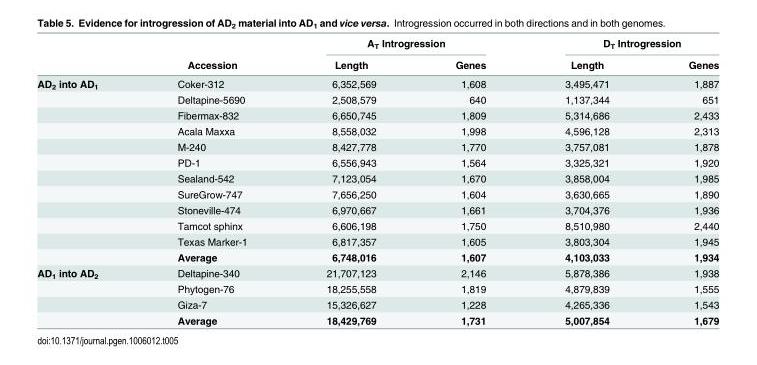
<table><thead><tr><td rowspan="2"></td><td rowspan="2">Accession</td><td colspan="2">A<sub>T</sub> Introgression</td><td colspan="2">D<sub>T</sub> Introgression</td></tr><tr><td>Length</td><td>Genes</td><td>Length</td><td>Genes</td></tr></thead><tbody><tr><td rowspan="12">AD<sub>2</sub> into AD<sub>1</sub></td><td>Coker-312</td><td>6,352,569</td><td>1,608</td><td>3,495,471</td><td>1,887</td></tr><tr><td>Deltapine-5690</td><td>2,508,579</td><td>640</td><td>1,137,344</td><td>651</td></tr><tr><td>Fibermax-832</td><td>6,650,745</td><td>1,809</td><td>5,314,686</td><td>2,433</td></tr><tr><td>Acala Maxxa</td><td>8,558,032</td><td>1,998</td><td>4,596,128</td><td>2,313</td></tr><tr><td>M-240</td><td>8,427,778</td><td>1,770</td><td>3,757,081</td><td>1,878</td></tr><tr><td>PD-1</td><td>6,556,943</td><td>1,564</td><td>3,325,321</td><td>1,920</td></tr><tr><td>Sealand-542</td><td>7,123,054</td><td>1,670</td><td>3,858,004</td><td>1,985</td></tr><tr><td>SureGrow-747</td><td>7,656,250</td><td>1,604</td><td>3,630,665</td><td>1,890</td></tr><tr><td>Stoneville-474</td><td>6,970,667</td><td>1,661</td><td>3,704,376</td><td>1,936</td></tr><tr><td>Tamcot sphinx</td><td>6,606,198</td><td>1,750</td><td>8,510,980</td><td>2,440</td></tr><tr><td>Texas Marker-1</td><td>6,817,357</td><td>1,605</td><td>3,803,304</td><td>1,945</td></tr><tr><td>Average</td><td>6,748,016</td><td>1,607</td><td>4,103,033</td><td>1,934</td></tr><tr><td rowspan="4">AD<sub>1</sub> into AD<sub>2</sub></td><td>Deltapine-340</td><td>21,707,123</td><td>2,146</td><td>5,878,386</td><td>1,938</td></tr><tr><td>Phytogen-76</td><td>18,255,558</td><td>1,819</td><td>4,879,839</td><td>1,555</td></tr><tr><td>Giza-7</td><td>15,326,627</td><td>1,228</td><td>4,265,336</td><td>1,543</td></tr><tr><td>Average</td><td>18,429,769</td><td>1,731</td><td>5,007,854</td><td>1,679</td></tr></tbody></table>